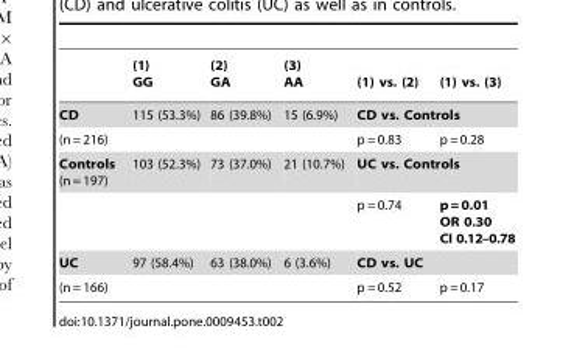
<table><thead><tr><td></td><td>(1) GG</td><td>(2) GA</td><td>(3) AA</td><td>(1) vs. (2)</td><td>(1) vs. (3)</td></tr></thead><tbody><tr><td>CD</td><td>115 (53.3%)</td><td>86 (39.8%)</td><td>15 (6.9%)</td><td colspan="2">CD vs. Controls</td></tr><tr><td>(n = 216)</td><td></td><td></td><td></td><td>p = 0.83</td><td>p = 0.28</td></tr><tr><td rowspan="2">Controls (n = 197)</td><td>103 (52.3%)</td><td>73 (37.0%)</td><td>21 (10.7%)</td><td colspan="2">UC vs. Controls</td></tr><tr><td></td><td></td><td></td><td>p = 0.74</td><td>p = 0.01 OR 0.30 CI 0.12–0.78</td></tr><tr><td>UC</td><td>97 (58.4%)</td><td>63 (38.0%)</td><td>6 (3.6%)</td><td colspan="2">CD vs. UC</td></tr><tr><td>(n = 166)</td><td></td><td></td><td></td><td>p = 0.52</td><td>p = 0.17</td></tr></tbody></table>